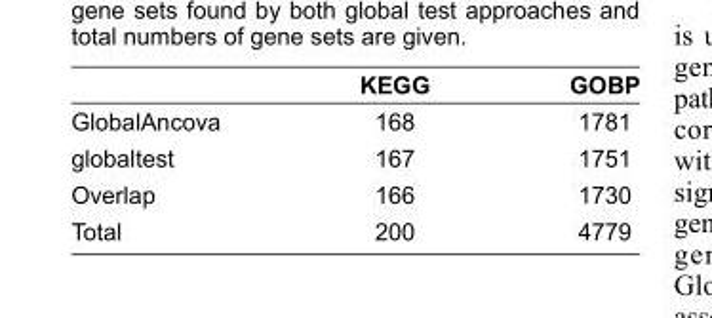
<table><thead><tr><td></td><td>KEGG</td><td>GOBP</td></tr></thead><tbody><tr><td>GlobalAncova</td><td>168</td><td>1781</td></tr><tr><td>globaltest</td><td>167</td><td>1751</td></tr><tr><td>Overlap</td><td>166</td><td>1730</td></tr><tr><td>Total</td><td>200</td><td>4779</td></tr></tbody></table>